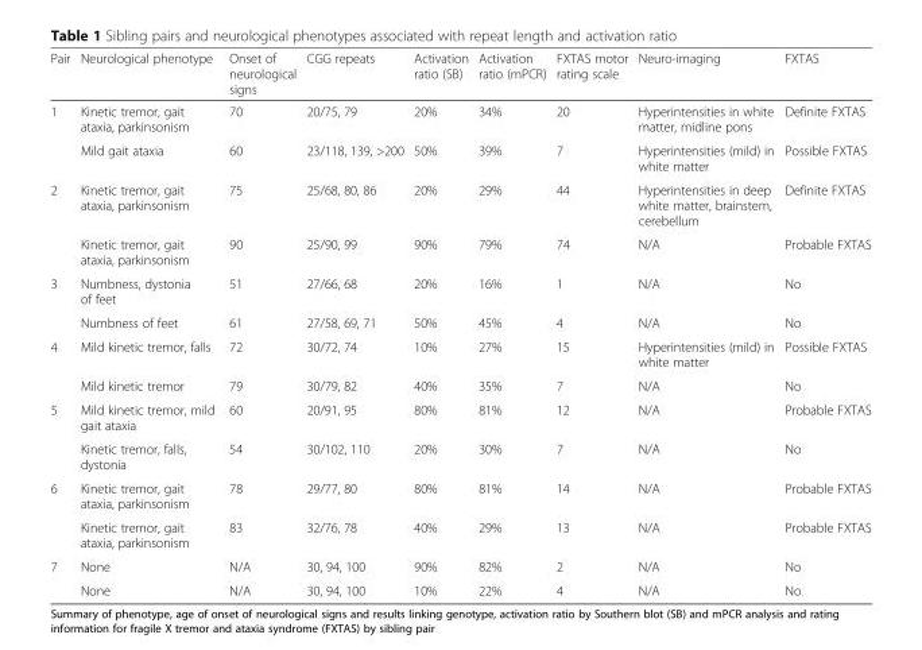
<table><thead><tr><td>Pair</td><td>Neurological phenotype</td><td>Onset of neurological signs</td><td>CGG repeats</td><td>Activation ratio (SB)</td><td>Activation ratio (mPCR)</td><td>FXTAS motor rating scale</td><td>Neuro-imaging</td><td>FXTAS</td></tr></thead><tbody><tr><td rowspan="2">1</td><td>Kinetic tremor, gait ataxia, parkinsonism</td><td>70</td><td>20/75, 79</td><td>20%</td><td>34%</td><td>20</td><td>Hyperintensities in white matter, midline pons</td><td>Definite FXTAS</td></tr><tr><td>Mild gait ataxia</td><td>60</td><td>23/118, 139, &gt;200</td><td>50%</td><td>39%</td><td>7</td><td>Hyperintensities (mild) in white matter</td><td>Possible FXTAS</td></tr><tr><td rowspan="2">2</td><td>Kinetic tremor, gait ataxia, parkinsonism</td><td>75</td><td>25/68, 80, 86</td><td>20%</td><td>29%</td><td>44</td><td>Hyperintensities in deep white matter, brainstem, cerebellum</td><td>Definite FXTAS</td></tr><tr><td>Kinetic tremor, gait ataxia, parkinsonism</td><td>90</td><td>25/90, 99</td><td>90%</td><td>79%</td><td>74</td><td>N/A</td><td>Probable FXTAS</td></tr><tr><td rowspan="2">3</td><td>Numbness, dystonia of feet</td><td>51</td><td>27/66, 68</td><td>20%</td><td>16%</td><td>1</td><td>N/A</td><td>No</td></tr><tr><td>Numbness of feet</td><td>61</td><td>27/58, 69, 71</td><td>50%</td><td>45%</td><td>4</td><td>N/A</td><td>No</td></tr><tr><td rowspan="2">4</td><td>Mild kinetic tremor, falls</td><td>72</td><td>30/72, 74</td><td>10%</td><td>27%</td><td>15</td><td>Hyperintensities (mild) in white matter</td><td>Possible FXTAS</td></tr><tr><td>Mild kinetic tremor</td><td>79</td><td>30/79, 82</td><td>40%</td><td>35%</td><td>7</td><td>N/A</td><td>No</td></tr><tr><td rowspan="2">5</td><td>Mild kinetic tremor, mild gait ataxia</td><td>60</td><td>20/91, 95</td><td>80%</td><td>81%</td><td>12</td><td>N/A</td><td>Probable FXTAS</td></tr><tr><td>Kinetic tremor, falls, dystonia</td><td>54</td><td>30/102, 110</td><td>20%</td><td>30%</td><td>7</td><td>N/A</td><td>No</td></tr><tr><td rowspan="2">6</td><td>Kinetic tremor, gait ataxia, parkinsonism</td><td>78</td><td>29/77, 80</td><td>80%</td><td>81%</td><td>14</td><td>N/A</td><td>Probable FXTAS</td></tr><tr><td>Kinetic tremor, gait ataxia, parkinsonism</td><td>83</td><td>32/76, 78</td><td>40%</td><td>29%</td><td>13</td><td>N/A</td><td>Probable FXTAS</td></tr><tr><td rowspan="2">7</td><td>None</td><td>N/A</td><td>30, 94, 100</td><td>90%</td><td>82%</td><td>2</td><td>N/A</td><td>No</td></tr><tr><td>None</td><td>N/A</td><td>30, 94, 100</td><td>10%</td><td>22%</td><td>4</td><td>N/A</td><td>No</td></tr></tbody></table>